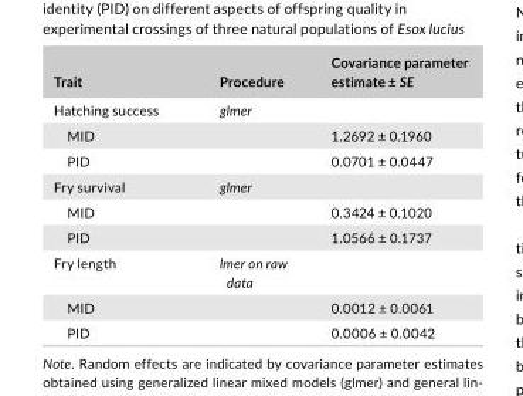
<table><thead><tr><td>Trait</td><td>Procedure</td><td>Covariance parameter estimate ± SE</td></tr></thead><tbody><tr><td>Hatching success</td><td>glmer</td><td></td></tr><tr><td>MID</td><td></td><td>1.2692 ± 0.1960</td></tr><tr><td>PID</td><td></td><td>0.0701 ± 0.0447</td></tr><tr><td>Fry survival</td><td>glmer</td><td></td></tr><tr><td>MID</td><td></td><td>0.3424 ± 0.1020</td></tr><tr><td>PID</td><td></td><td>1.0566 ± 0.1737</td></tr><tr><td>Fry length</td><td>lmer on raw data</td><td></td></tr><tr><td>MID</td><td></td><td>0.0012 ± 0.0061</td></tr><tr><td>PID</td><td></td><td>0.0006 ± 0.0042</td></tr></tbody></table>